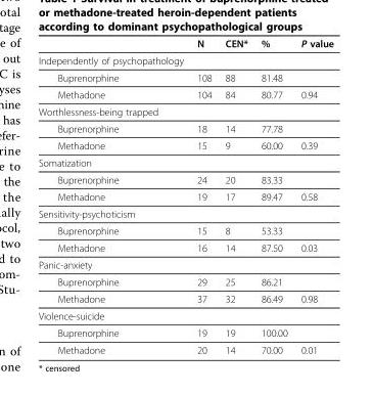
<table><thead><tr><td></td><td>N</td><td>CEN*</td><td>%</td><td>P value</td></tr></thead><tbody><tr><td colspan="5">Independently of psychopathology</td></tr><tr><td>Buprenorphine</td><td>108</td><td>88</td><td>81.48</td><td></td></tr><tr><td>Methadone</td><td>104</td><td>84</td><td>80.77</td><td>0.94</td></tr><tr><td colspan="5">Worthlessness-being trapped</td></tr><tr><td>Buprenorphine</td><td>18</td><td>14</td><td>77.78</td><td></td></tr><tr><td>Methadone</td><td>15</td><td>9</td><td>60.00</td><td>0.39</td></tr><tr><td colspan="5">Somatization</td></tr><tr><td>Buprenorphine</td><td>24</td><td>20</td><td>83.33</td><td></td></tr><tr><td>Methadone</td><td>19</td><td>17</td><td>89.47</td><td>0.58</td></tr><tr><td colspan="5">Sensitivity-psychoticism</td></tr><tr><td>Buprenorphine</td><td>15</td><td>8</td><td>53.33</td><td></td></tr><tr><td>Methadone</td><td>16</td><td>14</td><td>87.50</td><td>0.03</td></tr><tr><td colspan="5">Panic-anxiety</td></tr><tr><td>Buprenorphine</td><td>29</td><td>25</td><td>86.21</td><td></td></tr><tr><td>Methadone</td><td>37</td><td>32</td><td>86.49</td><td>0.98</td></tr><tr><td colspan="5">Violence-suicide</td></tr><tr><td>Buprenorphine</td><td>19</td><td>19</td><td>100.00</td><td></td></tr><tr><td>Methadone</td><td>20</td><td>14</td><td>70.00</td><td>0.01</td></tr></tbody></table>